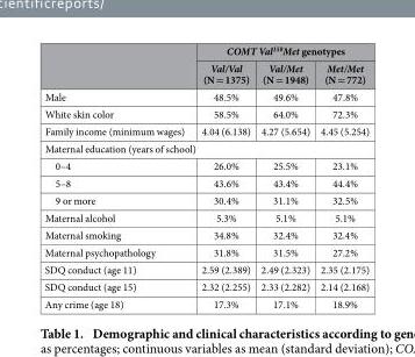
<table><thead><tr><td rowspan="2"></td><td colspan="3">COMT Val<sup>158</sup>Met genotypes</td></tr><tr><td>Val/Val (N = 1375)</td><td>Val/Met (N = 1948)</td><td>Met/Met (N = 772)</td></tr></thead><tbody><tr><td>Male</td><td>48.5%</td><td>49.6%</td><td>47.8%</td></tr><tr><td>White skin color</td><td>58.5%</td><td>64.0%</td><td>72.3%</td></tr><tr><td>Family income (minimum wages)</td><td>4.04 (6.138)</td><td>4.27 (5.654)</td><td>4.45 (5.254)</td></tr><tr><td colspan="4">Maternal education (years of school)</td></tr><tr><td>0–4</td><td>26.0%</td><td>25.5%</td><td>23.1%</td></tr><tr><td>5–8</td><td>43.6%</td><td>43.4%</td><td>44.4%</td></tr><tr><td>9 or more</td><td>30.4%</td><td>31.1%</td><td>32.5%</td></tr><tr><td>Maternal alcohol</td><td>5.3%</td><td>5.1%</td><td>5.1%</td></tr><tr><td>Maternal smoking</td><td>34.8%</td><td>32.4%</td><td>32.4%</td></tr><tr><td>Maternal psychopathology</td><td>31.8%</td><td>31.5%</td><td>27.2%</td></tr><tr><td>SDQ conduct (age 11)</td><td>2.59 (2.389)</td><td>2.49 (2.323)</td><td>2.35 (2.175)</td></tr><tr><td>SDQ conduct (age 15)</td><td>2.32 (2.255)</td><td>2.33 (2.282)</td><td>2.14 (2.168)</td></tr><tr><td>Any crime (age 18)</td><td>17.3%</td><td>17.1%</td><td>18.9%</td></tr></tbody></table>